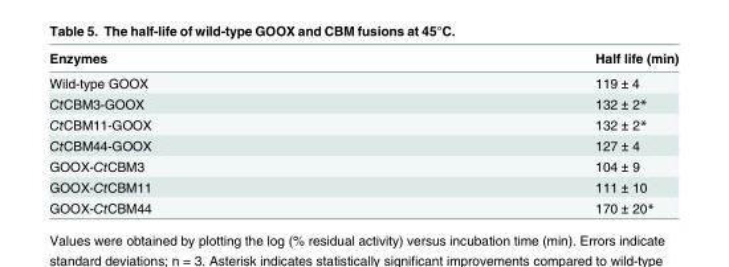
<table><thead><tr><td>Enzymes</td><td>Half life (min)</td></tr></thead><tbody><tr><td>Wild-type GOOX</td><td>119 ± 4</td></tr><tr><td>CtCBM3-GOOX</td><td>132 ± 2*</td></tr><tr><td>CtCBM11-GOOX</td><td>132 ± 2*</td></tr><tr><td>CtCBM44-GOOX</td><td>127 ± 4</td></tr><tr><td>GOOX-CtCBM3</td><td>104 ± 9</td></tr><tr><td>GOOX-CtCBM11</td><td>111 ± 10</td></tr><tr><td>GOOX-CtCBM44</td><td>170 ± 20*</td></tr></tbody></table>